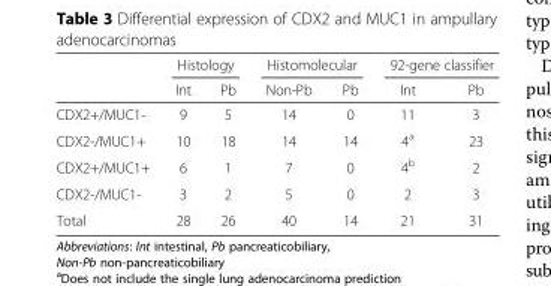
<table><thead><tr><td rowspan="2"></td><td colspan="2">Histology</td><td colspan="2">Histomolecular</td><td colspan="2">92-gene classifier</td></tr><tr><td>Int</td><td>Pb</td><td>Non-Pb</td><td>Pb</td><td>Int</td><td>Pb</td></tr></thead><tbody><tr><td>CDX2+/MUC1-</td><td>9</td><td>5</td><td>14</td><td>0</td><td>11</td><td>3</td></tr><tr><td>CDX2-/MUC1+</td><td>10</td><td>18</td><td>14</td><td>14</td><td>4<sup>a</sup></td><td>23</td></tr><tr><td>CDX2+/MUC1+</td><td>6</td><td>1</td><td>7</td><td>0</td><td>4<sup>b</sup></td><td>2</td></tr><tr><td>CDX2-/MUC1-</td><td>3</td><td>2</td><td>5</td><td>0</td><td>2</td><td>3</td></tr><tr><td>Total</td><td>28</td><td>26</td><td>40</td><td>14</td><td>21</td><td>31</td></tr></tbody></table>